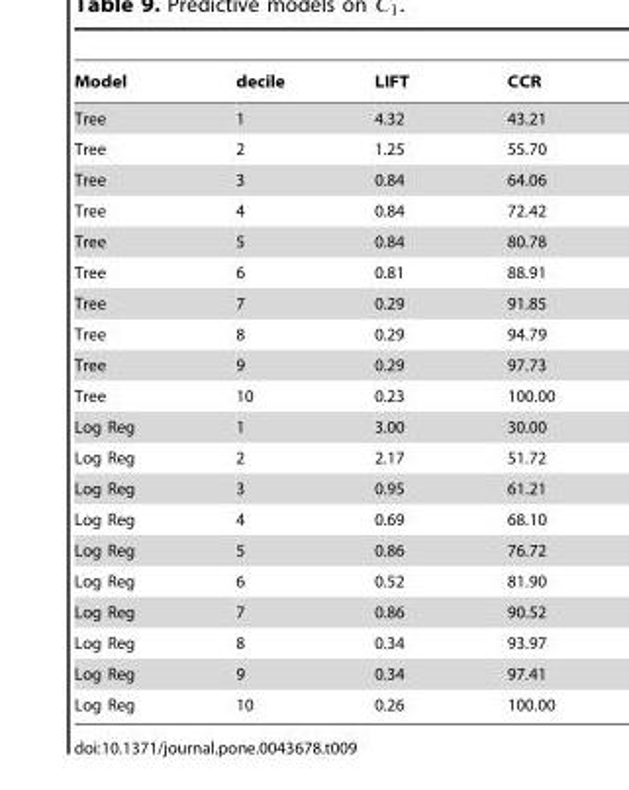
<table><thead><tr><td>Model</td><td>decile</td><td>LIFT</td><td>CCR</td></tr></thead><tbody><tr><td>Tree</td><td>1</td><td>4.32</td><td>43.21</td></tr><tr><td>Tree</td><td>2</td><td>1.25</td><td>55.70</td></tr><tr><td>Tree</td><td>3</td><td>0.84</td><td>64.06</td></tr><tr><td>Tree</td><td>4</td><td>0.84</td><td>72.42</td></tr><tr><td>Tree</td><td>5</td><td>0.84</td><td>80.78</td></tr><tr><td>Tree</td><td>6</td><td>0.81</td><td>88.91</td></tr><tr><td>Tree</td><td>7</td><td>0.29</td><td>91.85</td></tr><tr><td>Tree</td><td>8</td><td>0.29</td><td>94.79</td></tr><tr><td>Tree</td><td>9</td><td>0.29</td><td>97.73</td></tr><tr><td>Tree</td><td>10</td><td>0.23</td><td>100.00</td></tr><tr><td>Log Reg</td><td>1</td><td>3.00</td><td>30.00</td></tr><tr><td>Log Reg</td><td>2</td><td>2.17</td><td>51.72</td></tr><tr><td>Log Reg</td><td>3</td><td>0.95</td><td>61.21</td></tr><tr><td>Log Reg</td><td>4</td><td>0.69</td><td>68.10</td></tr><tr><td>Log Reg</td><td>5</td><td>0.86</td><td>76.72</td></tr><tr><td>Log Reg</td><td>6</td><td>0.52</td><td>81.90</td></tr><tr><td>Log Reg</td><td>7</td><td>0.86</td><td>90.52</td></tr><tr><td>Log Reg</td><td>8</td><td>0.34</td><td>93.97</td></tr><tr><td>Log Reg</td><td>9</td><td>0.34</td><td>97.41</td></tr><tr><td>Log Reg</td><td>10</td><td>0.26</td><td>100.00</td></tr></tbody></table>